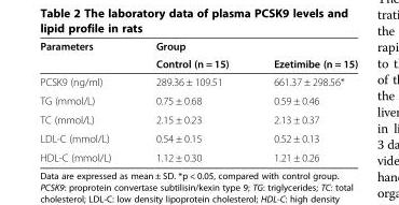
<table><thead><tr><td rowspan="2">Parameters</td><td rowspan="2">Group Control (n = 15)</td><td rowspan="2">Ezetimibe (n = 15)</td></tr><tr></tr></thead><tbody><tr><td>PCSK9 (ng/ml)</td><td>289.36 ± 109.51</td><td>661.37 ± 298.56*</td></tr><tr><td>TG (mmol/L)</td><td>0.75 ± 0.68</td><td>0.59 ± 0.46</td></tr><tr><td>TC (mmol/L)</td><td>2.15 ± 0.23</td><td>2.13 ± 0.37</td></tr><tr><td>LDL-C (mmol/L)</td><td>0.54 ± 0.15</td><td>0.52 ± 0.13</td></tr><tr><td>HDL-C (mmol/L)</td><td>1.12 ± 0.30</td><td>1.21 ± 0.26</td></tr></tbody></table>